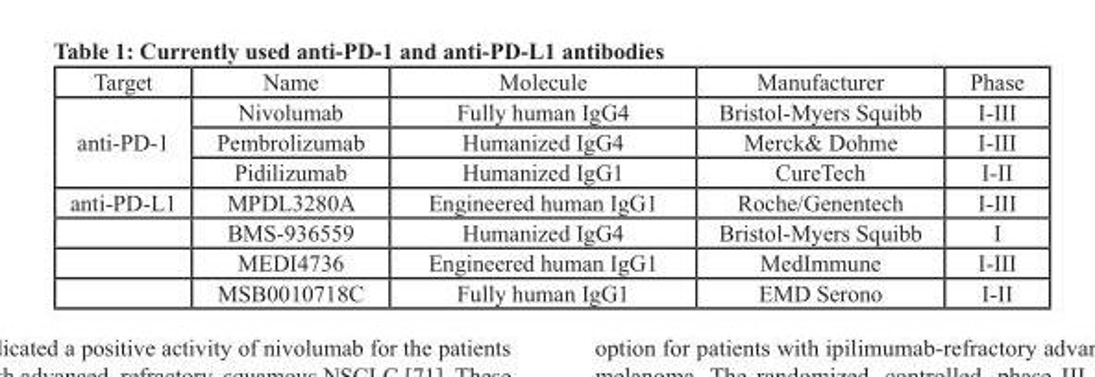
<table><thead><tr><td>Target</td><td>Name</td><td>Molecule</td><td>Manufacturer</td><td>Phase</td></tr></thead><tbody><tr><td rowspan="3">anti-PD-1</td><td>Nivolumab</td><td>Fully human IgG4</td><td>Bristol-Myers Squibb</td><td>I-III</td></tr><tr><td>Pembrolizumab</td><td>Humanized IgG4</td><td>Merck&amp; Dohme</td><td>I-III</td></tr><tr><td>Pidilizumab</td><td>Humanized IgG1</td><td>CureTech</td><td>I-II</td></tr><tr><td rowspan="4">anti-PD-L1</td><td>MPDL3280A</td><td>Engineered human IgG1</td><td>Roche/Genentech</td><td>I-III</td></tr><tr><td>BMS-936559</td><td>Humanized IgG4</td><td>Bristol-Myers Squibb</td><td>I</td></tr><tr><td>MEDI4736</td><td>Engineered human IgG1</td><td>MedImmune</td><td>I-III</td></tr><tr><td>MSB0010718C</td><td>Fully human IgG1</td><td>EMD Serono</td><td>I-II</td></tr></tbody></table>